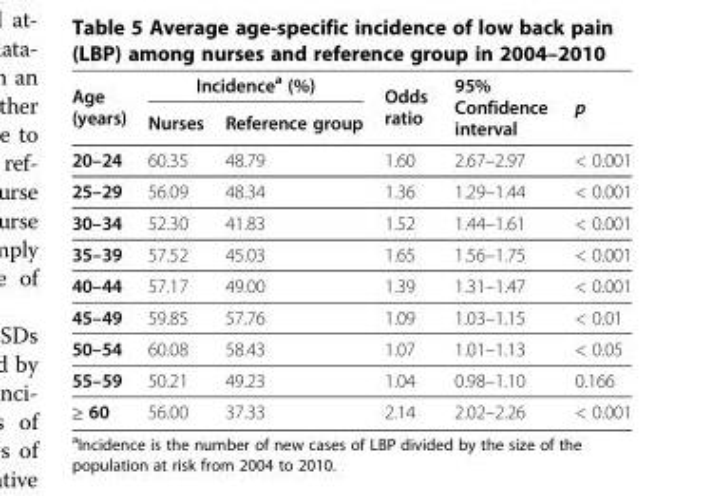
<table><thead><tr><td rowspan="2">Age (years)</td><td colspan="2">Incidence<sup>a</sup> (%)</td><td rowspan="2">Odds ratio</td><td rowspan="2">95% Confidence interval</td><td rowspan="2">p</td></tr><tr><td>Nurses</td><td>Reference group</td></tr></thead><tbody><tr><td>20–24</td><td>60.35</td><td>48.79</td><td>1.60</td><td>2.67–2.97</td><td>&lt; 0.001</td></tr><tr><td>25–29</td><td>56.09</td><td>48.34</td><td>1.36</td><td>1.29–1.44</td><td>&lt; 0.001</td></tr><tr><td>30–34</td><td>52.30</td><td>41.83</td><td>1.52</td><td>1.44–1.61</td><td>&lt; 0.001</td></tr><tr><td>35–39</td><td>57.52</td><td>45.03</td><td>1.65</td><td>1.56–1.75</td><td>&lt; 0.001</td></tr><tr><td>40–44</td><td>57.17</td><td>49.00</td><td>1.39</td><td>1.31–1.47</td><td>&lt; 0.001</td></tr><tr><td>45–49</td><td>59.85</td><td>57.76</td><td>1.09</td><td>1.03–1.15</td><td>&lt; 0.01</td></tr><tr><td>50–54</td><td>60.08</td><td>58.43</td><td>1.07</td><td>1.01–1.13</td><td>&lt; 0.05</td></tr><tr><td>55–59</td><td>50.21</td><td>49.23</td><td>1.04</td><td>0.98–1.10</td><td>0.166</td></tr><tr><td>≥ 60</td><td>56.00</td><td>37.33</td><td>2.14</td><td>2.02–2.26</td><td>&lt; 0.001</td></tr></tbody></table>